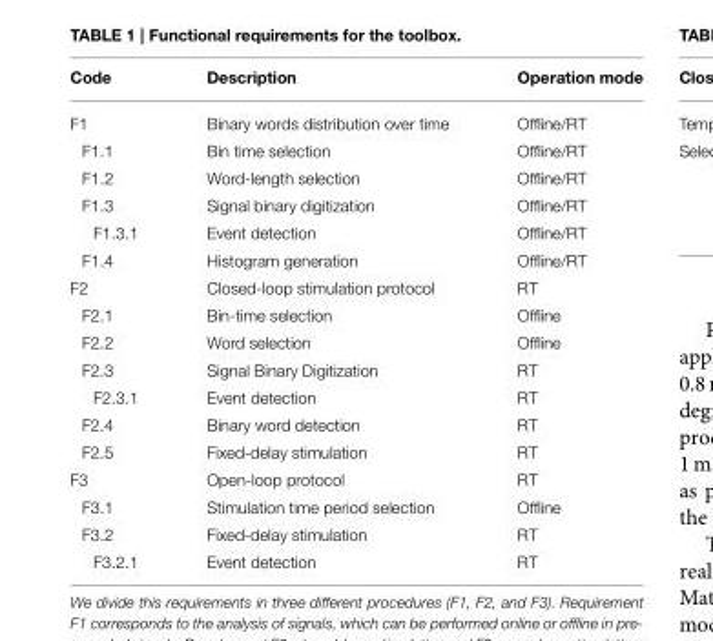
<table><thead><tr><td>Code</td><td>Description</td><td>Operation mode</td></tr></thead><tbody><tr><td>F1</td><td>Binary words distribution over time</td><td>Offline/RT</td></tr><tr><td>F1.1</td><td>Bin time selection</td><td>Offline/RT</td></tr><tr><td>F1.2</td><td>Word-length selection</td><td>Offline/RT</td></tr><tr><td>F1.3</td><td>Signal binary digitization</td><td>Offline/RT</td></tr><tr><td>F1.3.1</td><td>Event detection</td><td>Offline/RT</td></tr><tr><td>F1.4</td><td>Histogram generation</td><td>Offline/RT</td></tr><tr><td>F2</td><td>Closed-loop stimulation protocol</td><td>RT</td></tr><tr><td>F2.1</td><td>Bin-time selection</td><td>Offline</td></tr><tr><td>F2.2</td><td>Word selection</td><td>Offline</td></tr><tr><td>F2.3</td><td>Signal Binary Digitization</td><td>RT</td></tr><tr><td>F2.3.1</td><td>Event detection</td><td>RT</td></tr><tr><td>F2.4</td><td>Binary word detection</td><td>RT</td></tr><tr><td>F2.5</td><td>Fixed-delay stimulation</td><td>RT</td></tr><tr><td>F3</td><td>Open-loop protocol</td><td>RT</td></tr><tr><td>F3.1</td><td>Stimulation time period selection</td><td>Offline</td></tr><tr><td>F3.2</td><td>Fixed-delay stimulation</td><td>RT</td></tr><tr><td>F3.2.1</td><td>Event detection</td><td>RT</td></tr></tbody></table>